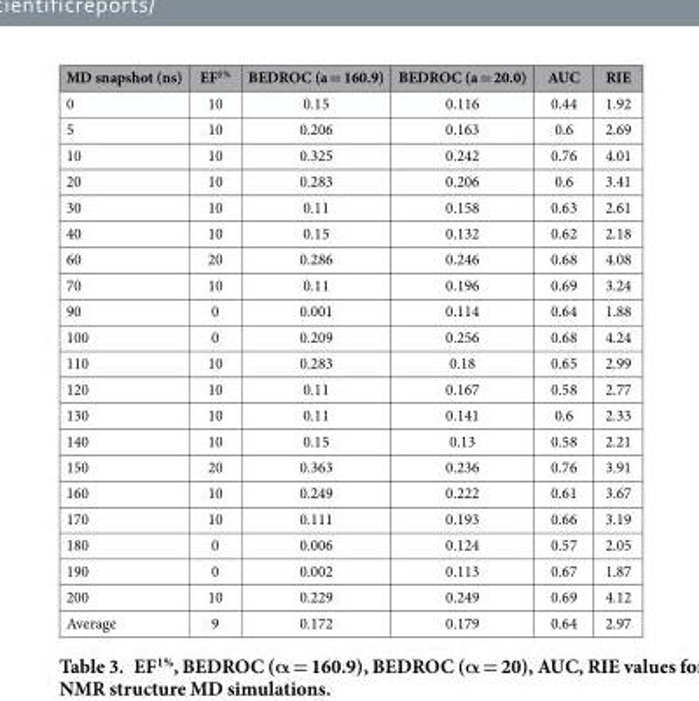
<table><thead><tr><td>MD snapshot (ns)</td><td>EF<sup>1%</sup></td><td>BEDROC (a = 160.9)</td><td>BEDROC (a = 20.0)</td><td>AUC</td><td>RIE</td></tr></thead><tbody><tr><td>0</td><td>10</td><td>0.15</td><td>0.116</td><td>0.44</td><td>1.92</td></tr><tr><td>5</td><td>10</td><td>0.206</td><td>0.163</td><td>0.6</td><td>2.69</td></tr><tr><td>10</td><td>10</td><td>0.325</td><td>0.242</td><td>0.76</td><td>4.01</td></tr><tr><td>20</td><td>10</td><td>0.283</td><td>0.206</td><td>0.6</td><td>3.41</td></tr><tr><td>30</td><td>10</td><td>0.11</td><td>0.158</td><td>0.63</td><td>2.61</td></tr><tr><td>40</td><td>10</td><td>0.15</td><td>0.132</td><td>0.62</td><td>2.18</td></tr><tr><td>60</td><td>20</td><td>0.286</td><td>0.246</td><td>0.68</td><td>4.08</td></tr><tr><td>70</td><td>10</td><td>0.11</td><td>0.196</td><td>0.69</td><td>3.24</td></tr><tr><td>90</td><td>0</td><td>0.001</td><td>0.114</td><td>0.64</td><td>1.88</td></tr><tr><td>100</td><td>0</td><td>0.209</td><td>0.256</td><td>0.68</td><td>4.24</td></tr><tr><td>110</td><td>10</td><td>0.283</td><td>0.18</td><td>0.65</td><td>2.99</td></tr><tr><td>120</td><td>10</td><td>0.11</td><td>0.167</td><td>0.58</td><td>2.77</td></tr><tr><td>130</td><td>10</td><td>0.11</td><td>0.141</td><td>0.6</td><td>2.33</td></tr><tr><td>140</td><td>10</td><td>0.15</td><td>0.13</td><td>0.58</td><td>2.21</td></tr><tr><td>150</td><td>20</td><td>0.363</td><td>0.236</td><td>0.76</td><td>3.91</td></tr><tr><td>160</td><td>10</td><td>0.249</td><td>0.222</td><td>0.61</td><td>3.67</td></tr><tr><td>170</td><td>10</td><td>0.111</td><td>0.193</td><td>0.66</td><td>3.19</td></tr><tr><td>180</td><td>0</td><td>0.006</td><td>0.124</td><td>0.57</td><td>2.05</td></tr><tr><td>190</td><td>0</td><td>0.002</td><td>0.113</td><td>0.67</td><td>1.87</td></tr><tr><td>200</td><td>10</td><td>0.229</td><td>0.249</td><td>0.69</td><td>4.12</td></tr><tr><td>Average</td><td>9</td><td>0.172</td><td>0.179</td><td>0.64</td><td>2.97</td></tr></tbody></table>